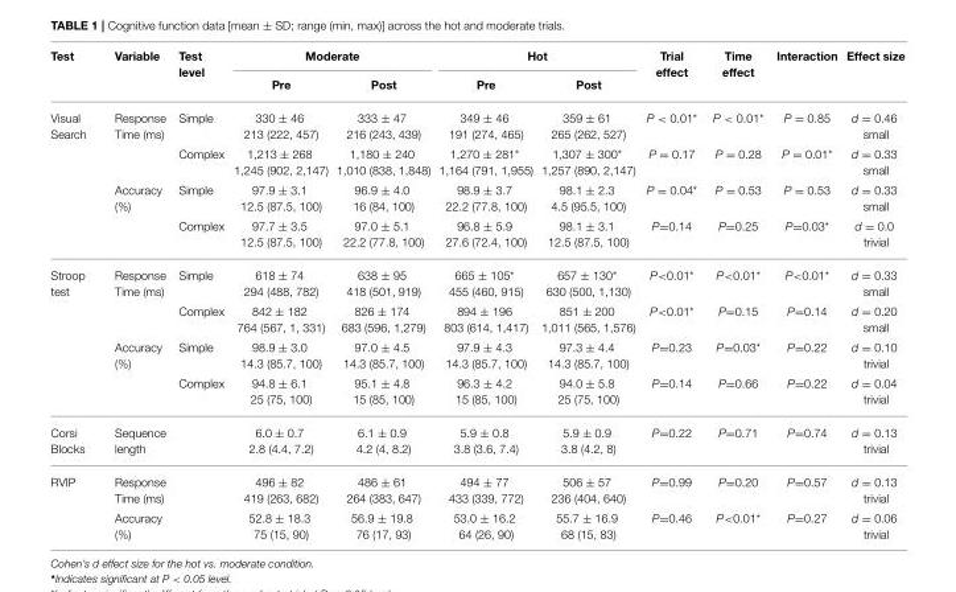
<table><thead><tr><td rowspan="2">Test</td><td rowspan="2">Variable</td><td rowspan="2">Test level</td><td colspan="2">Moderate</td><td colspan="2">Hot</td><td rowspan="2">Trial effect</td><td rowspan="2">Time effect</td><td rowspan="2">Interaction</td><td rowspan="2">Effect size</td></tr><tr><td>Pre</td><td>Post</td><td>Pre</td><td>Post</td></tr></thead><tbody><tr><td rowspan="4">Visual Search</td><td>Response Time (ms)</td><td>Simple</td><td>330 ± 46 213 (222, 457)</td><td>333 ± 47 216 (243, 439)</td><td>349 ± 46 191 (274, 465)</td><td>359 ± 61 265 (262, 527)</td><td>P &lt; 0.01*</td><td>P &lt; 0.01*</td><td>P = 0.85</td><td>d = 0.46 small</td></tr><tr><td></td><td>Complex</td><td>1,213 ± 268 1,245 (902, 2,147)</td><td>1,180 ± 240 1,010 (838, 1,848)</td><td>1,270 ± 281* 1,164 (791, 1,955)</td><td>1,307 ± 300* 1,257 (890, 2,147)</td><td>P = 0.17</td><td>P = 0.28</td><td>P = 0.01*</td><td>d = 0.33 small</td></tr><tr><td>Accuracy (%)</td><td>Simple</td><td>97.9 ± 3.1 12.5 (87.5, 100)</td><td>96.9 ± 4.0 16 (84, 100)</td><td>98.9 ± 3.7 22.2 (77.8, 100)</td><td>98.1 ± 2.3 4.5 (95.5, 100)</td><td>P = 0.04*</td><td>P = 0.53</td><td>P = 0.53</td><td>d = 0.33 small</td></tr><tr><td></td><td>Complex</td><td>97.7 ± 3.5 12.5 (87.5, 100)</td><td>97.0 ± 5.1 22.2 (77.8, 100)</td><td>96.8 ± 5.9 27.6 (72.4, 100)</td><td>98.1 ± 3.1 12.5 (87.5, 100)</td><td>P=0.14</td><td>P=0.25</td><td>P=0.03*</td><td>d = 0.0 trivial</td></tr><tr><td rowspan="4">Stroop test</td><td>Response Time (ms)</td><td>Simple</td><td>618 ± 74 294 (488, 782)</td><td>638 ± 95 418 (501, 919)</td><td>665 ± 105* 455 (460, 915)</td><td>657 ± 130* 630 (500, 1,130)</td><td>P&lt;0.01*</td><td>P&lt;0.01*</td><td>P&lt;0.01*</td><td>d = 0.33 small</td></tr><tr><td></td><td>Complex</td><td>842 ± 182 764 (567, 1, 331)</td><td>826 ± 174 683 (596, 1,279)</td><td>894 ± 196 803 (614, 1,417)</td><td>851 ± 200 1,011 (565, 1,576)</td><td>P&lt;0.01*</td><td>P=0.15</td><td>P=0.14</td><td>d = 0.20 small</td></tr><tr><td>Accuracy (%)</td><td>Simple</td><td>98.9 ± 3.0 14.3 (85.7, 100)</td><td>97.0 ± 4.5 14.3 (85.7, 100)</td><td>97.9 ± 4.3 14.3 (85.7, 100)</td><td>97.3 ± 4.4 14.3 (85.7, 100)</td><td>P=0.23</td><td>P=0.03*</td><td>P=0.22</td><td>d = 0.10 trivial</td></tr><tr><td></td><td>Complex</td><td>94.8 ± 6.1 25 (75, 100)</td><td>95.1 ± 4.8 15 (85, 100)</td><td>96.3 ± 4.2 15 (85, 100)</td><td>94.0 ± 5.8 25 (75, 100)</td><td>P=0.14</td><td>P=0.66</td><td>P=0.22</td><td>d = 0.04 trivial</td></tr><tr><td>Corsi Blocks</td><td>Sequence length</td><td></td><td>6.0 ± 0.7 2.8 (4.4, 7.2)</td><td>6.1 ± 0.9 4.2 (4, 8.2)</td><td>5.9 ± 0.8 3.8 (3.6, 7.4)</td><td>5.9 ± 0.9 3.8 (4.2, 8)</td><td>P=0.22</td><td>P=0.71</td><td>P=0.74</td><td>d = 0.13 trivial</td></tr><tr><td rowspan="2">RVIP</td><td>Response Time (ms)</td><td></td><td>496 ± 82 419 (263, 682)</td><td>486 ± 61 264 (383, 647)</td><td>494 ± 77 433 (339, 772)</td><td>506 ± 57 236 (404, 640)</td><td>P=0.99</td><td>P=0.20</td><td>P=0.57</td><td>d = 0.13 trivial</td></tr><tr><td>Accuracy (%)</td><td></td><td>52.8 ± 18.3 75 (15, 90)</td><td>56.9 ± 19.8 76 (17, 93)</td><td>53.0 ± 16.2 64 (26, 90)</td><td>55.7 ± 16.9 68 (15, 83)</td><td>P=0.46</td><td>P&lt;0.01*</td><td>P=0.27</td><td>d = 0.06 trivial</td></tr></tbody></table>